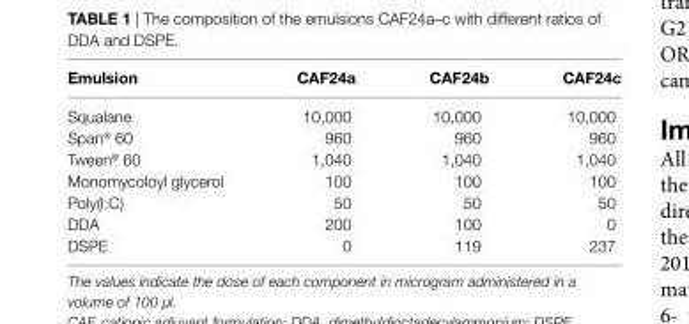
<table><thead><tr><td>emulsion</td><td>caF24a</td><td>caF24b</td><td>caF24c</td></tr></thead><tbody><tr><td>Squalane</td><td>10,000</td><td>10,000</td><td>10,000</td></tr><tr><td>Span<sup>®</sup> 60</td><td>960</td><td>960</td><td>960</td></tr><tr><td>Tween<sup>®</sup> 60</td><td>1,040</td><td>1,040</td><td>1,040</td></tr><tr><td>Monomycoloyl glycerol</td><td>100</td><td>100</td><td>100</td></tr><tr><td>Poly(I:C)</td><td>50</td><td>50</td><td>50</td></tr><tr><td>DDA</td><td>200</td><td>100</td><td>0</td></tr><tr><td>DSPE</td><td>0</td><td>119</td><td>237</td></tr></tbody></table>